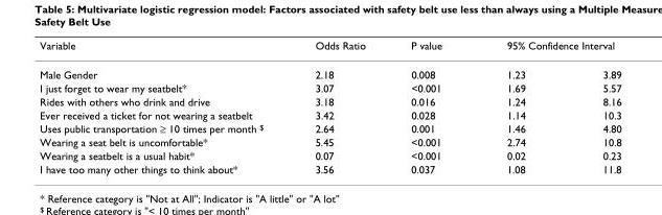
<table><thead><tr><td rowspan="2">Variable Male Gender</td><td rowspan="2">Odds Ratio 2.18</td><td rowspan="2">P value 0.008</td><td colspan="2">95% Confidence Interval</td></tr><tr><td>1.23</td><td>3.89</td></tr></thead><tbody><tr><td>I just forget to wear my seatbelt*</td><td>3.07</td><td>&lt;0.001</td><td>1.69</td><td>5.57</td></tr><tr><td>Rides with others who drink and drive</td><td>3.18</td><td>0.016</td><td>1.24</td><td>8.16</td></tr><tr><td>Ever received a ticket for not wearing a seatbelt</td><td>3.42</td><td>0.028</td><td>1.14</td><td>10.3</td></tr><tr><td>Uses public transportation ≥ 10 times per month $</td><td>2.64</td><td>0.001</td><td>1.46</td><td>4.80</td></tr><tr><td>Wearing a seat belt is uncomfortable*</td><td>5.45</td><td>&lt;0.001</td><td>2.74</td><td>10.8</td></tr><tr><td>Wearing a seatbelt is a usual habit*</td><td>0.07</td><td>&lt;0.001</td><td>0.02</td><td>0.23</td></tr><tr><td>I have too many other things to think about*</td><td>3.56</td><td>0.037</td><td>1.08</td><td>11.8</td></tr></tbody></table>